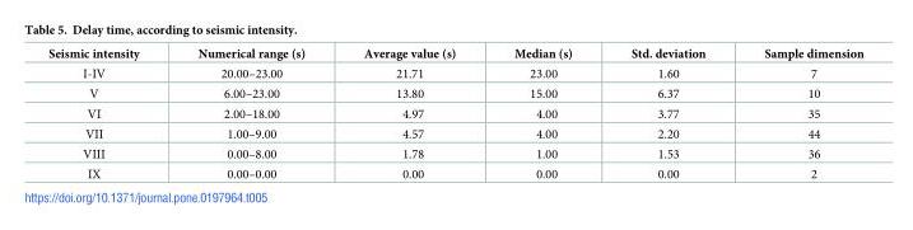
<table><thead><tr><td>Seismic intensity</td><td>Numerical range (s)</td><td>Average value (s)</td><td>Median (s)</td><td>Std. deviation</td><td>Sample dimension</td></tr></thead><tbody><tr><td>I-IV</td><td>20.00–23.00</td><td>21.71</td><td>23.00</td><td>1.60</td><td>7</td></tr><tr><td>V</td><td>6.00–23.00</td><td>13.80</td><td>15.00</td><td>6.37</td><td>10</td></tr><tr><td>VI</td><td>2.00–18.00</td><td>4.97</td><td>4.00</td><td>3.77</td><td>35</td></tr><tr><td>VII</td><td>1.00–9.00</td><td>4.57</td><td>4.00</td><td>2.20</td><td>44</td></tr><tr><td>VIII</td><td>0.00–8.00</td><td>1.78</td><td>1.00</td><td>1.53</td><td>36</td></tr><tr><td>IX</td><td>0.00–0.00</td><td>0.00</td><td>0.00</td><td>0.00</td><td>2</td></tr></tbody></table>